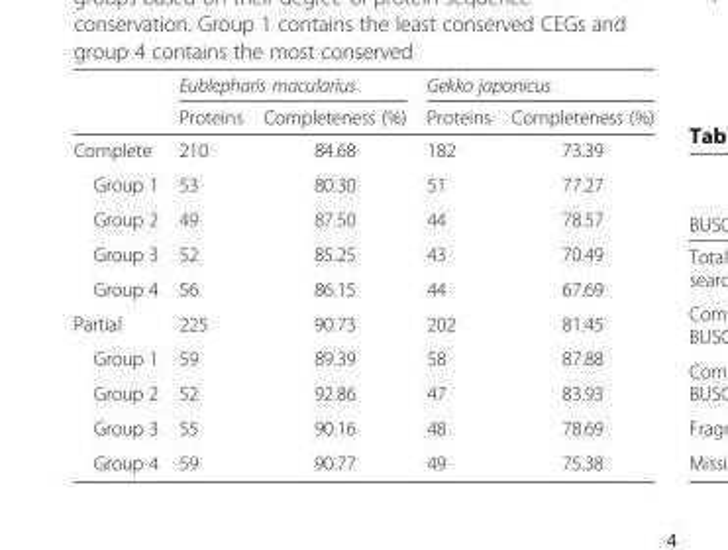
<table><thead><tr><td rowspan="2"></td><td colspan="2">Eublepharis macularius</td><td colspan="2">Gekko japonicus</td></tr><tr><td>Proteins</td><td>Completeness (%)</td><td>Proteins</td><td>Completeness (%)</td></tr></thead><tbody><tr><td>Complete</td><td>210</td><td>84.68</td><td>182</td><td>73.39</td></tr><tr><td>Group 1</td><td>53</td><td>80.30</td><td>51</td><td>77.27</td></tr><tr><td>Group 2</td><td>49</td><td>87.50</td><td>44</td><td>78.57</td></tr><tr><td>Group 3</td><td>52</td><td>85.25</td><td>43</td><td>70.49</td></tr><tr><td>Group 4</td><td>56</td><td>86.15</td><td>44</td><td>67.69</td></tr><tr><td>Partial</td><td>225</td><td>90.73</td><td>202</td><td>81.45</td></tr><tr><td>Group 1</td><td>59</td><td>89.39</td><td>58</td><td>87.88</td></tr><tr><td>Group 2</td><td>52</td><td>92.86</td><td>47</td><td>83.93</td></tr><tr><td>Group 3</td><td>55</td><td>90.16</td><td>48</td><td>78.69</td></tr><tr><td>Group 4</td><td>59</td><td>90.77</td><td>49</td><td>75.38</td></tr></tbody></table>